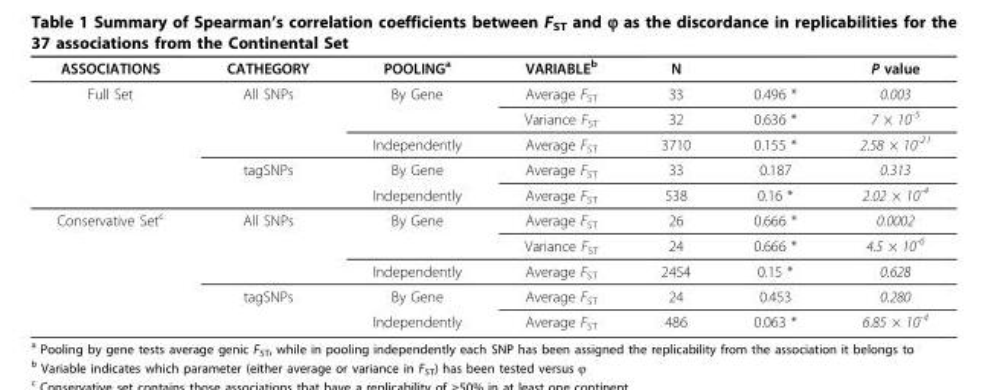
<table><thead><tr><td>ASSOCIATIONS</td><td>CATHEGORY</td><td>POOLING<sup>a</sup></td><td>VARIABLE<sup>b</sup></td><td>N</td><td></td><td>P value</td></tr></thead><tbody><tr><td rowspan="5">Full Set</td><td>All SNPs</td><td>By Gene</td><td>Average F<sub>ST</sub></td><td>33</td><td>0.496 *</td><td>0.003</td></tr><tr><td></td><td></td><td>Variance F<sub>ST</sub></td><td>32</td><td>0.636 *</td><td>7 × 10<sup>-5</sup></td></tr><tr><td></td><td>Independently</td><td>Average F<sub>ST</sub></td><td>3710</td><td>0.155 *</td><td>2.58 × 10<sup>-21</sup></td></tr><tr><td>tagSNPs</td><td>By Gene</td><td>Average F<sub>ST</sub></td><td>33</td><td>0.187</td><td>0.313</td></tr><tr><td></td><td>Independently</td><td>Average F<sub>ST</sub></td><td>538</td><td>0.16 *</td><td>2.02 × 10<sup>-4</sup></td></tr><tr><td rowspan="5">Conservative Set<sup>c</sup></td><td>All SNPs</td><td>By Gene</td><td>Average F<sub>ST</sub></td><td>26</td><td>0.666 *</td><td>0.0002</td></tr><tr><td></td><td></td><td>Variance F<sub>ST</sub></td><td>24</td><td>0.666 *</td><td>4.5 × 10<sup>-6</sup></td></tr><tr><td></td><td>Independently</td><td>Average F<sub>ST</sub></td><td>2454</td><td>0.15 *</td><td>0.628</td></tr><tr><td>tagSNPs</td><td>By Gene</td><td>Average F<sub>ST</sub></td><td>24</td><td>0.453</td><td>0.280</td></tr><tr><td></td><td>Independently</td><td>Average F<sub>ST</sub></td><td>486</td><td>0.063 *</td><td>6.85 × 10<sup>-4</sup></td></tr></tbody></table>